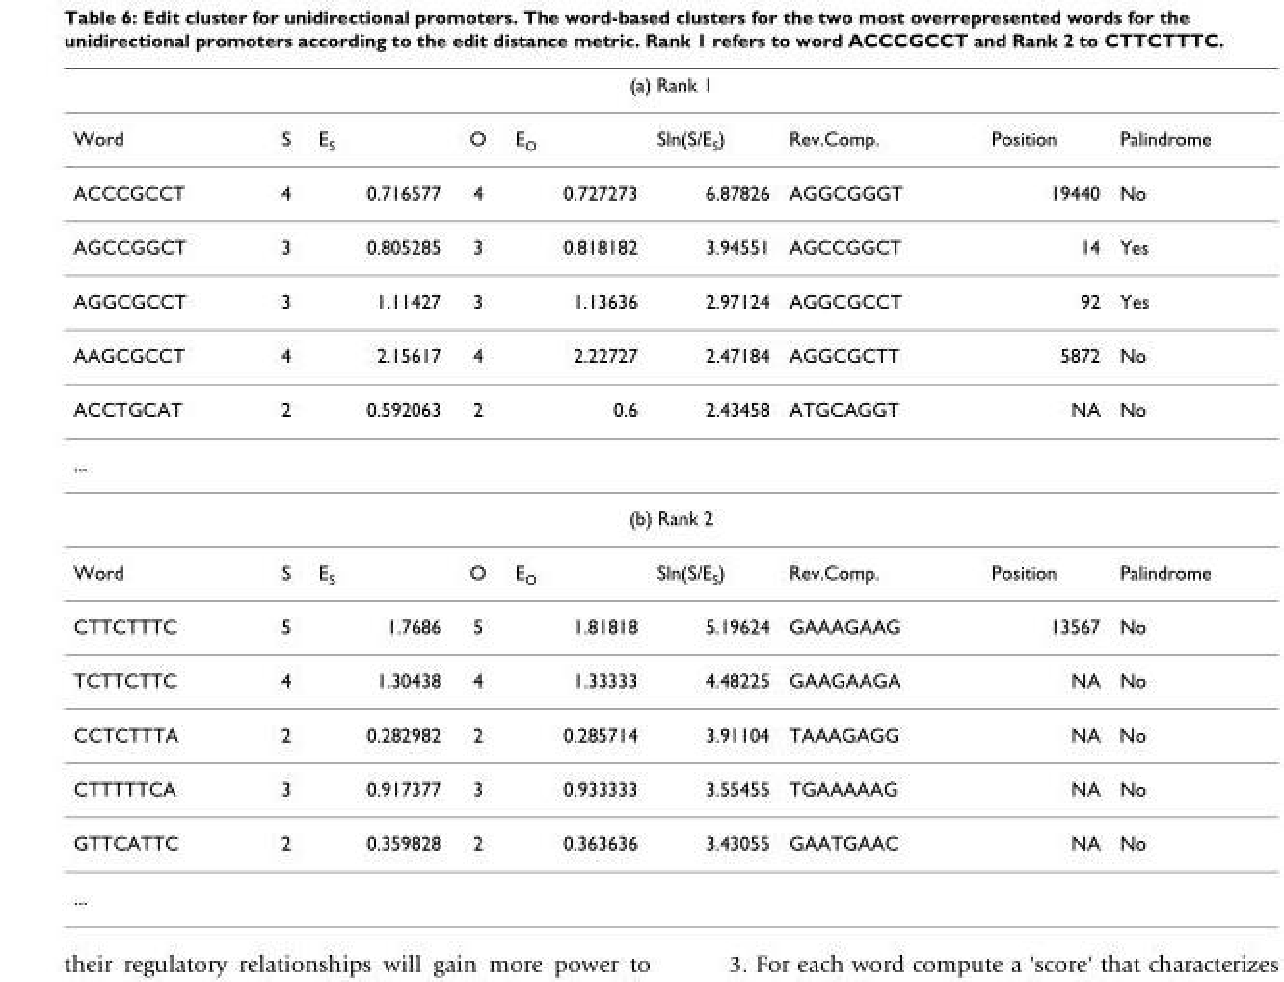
<table><thead><tr><td colspan="9">(a) Rank 1</td></tr><tr><td>Word</td><td>S</td><td>E<sub>S</sub></td><td>O</td><td>E<sub>O</sub></td><td>Sln(S/E<sub>S</sub>)</td><td>Rev.Comp.</td><td>Position</td><td>Palindrome</td></tr></thead><tbody><tr><td>ACCCGCCT</td><td>4</td><td>0.716577</td><td>4</td><td>0.727273</td><td>6.87826</td><td>AGGCGGGT</td><td>19440</td><td>No</td></tr><tr><td>AGCCGGCT</td><td>3</td><td>0.805285</td><td>3</td><td>0.818182</td><td>3.94551</td><td>AGCCGGCT</td><td>14</td><td>Yes</td></tr><tr><td>AGGCGCCT</td><td>3</td><td>1.11427</td><td>3</td><td>1.13636</td><td>2.97124</td><td>AGGCGCCT</td><td>92</td><td>Yes</td></tr><tr><td>AAGCGCCT</td><td>4</td><td>2.15617</td><td>4</td><td>2.22727</td><td>2.47184</td><td>AGGCGCTT</td><td>5872</td><td>No</td></tr><tr><td>ACCTGCAT</td><td>2</td><td>0.592063</td><td>2</td><td>0.6</td><td>2.43458</td><td>ATGCAGGT</td><td>NA</td><td>No</td></tr><tr><td colspan="9">...</td></tr><tr><td colspan="9">(b) Rank 2</td></tr><tr><td>Word</td><td>S</td><td>E<sub>S</sub></td><td>O</td><td>E<sub>O</sub></td><td>Sln(S/E<sub>S</sub>)</td><td>Rev.Comp.</td><td>Position</td><td>Palindrome</td></tr><tr><td>CTTCTTTC</td><td>5</td><td>1.7686</td><td>5</td><td>1.81818</td><td>5.19624</td><td>GAAAGAAG</td><td>13567</td><td>No</td></tr><tr><td>TCTTCTTC</td><td>4</td><td>1.30438</td><td>4</td><td>1.33333</td><td>4.48225</td><td>GAAGAAGA</td><td>NA</td><td>No</td></tr><tr><td>CCTCTTTA</td><td>2</td><td>0.282982</td><td>2</td><td>0.285714</td><td>3.91104</td><td>TAAAGAGG</td><td>NA</td><td>No</td></tr><tr><td>CTTTTTCA</td><td>3</td><td>0.917377</td><td>3</td><td>0.933333</td><td>3.55455</td><td>TGAAAAAG</td><td>NA</td><td>No</td></tr><tr><td>GTTCATTC</td><td>2</td><td>0.359828</td><td>2</td><td>0.363636</td><td>3.43055</td><td>GAATGAAC</td><td>NA</td><td>No</td></tr><tr><td>...</td><td></td><td></td><td></td><td></td><td></td><td></td><td></td><td></td></tr></tbody></table>